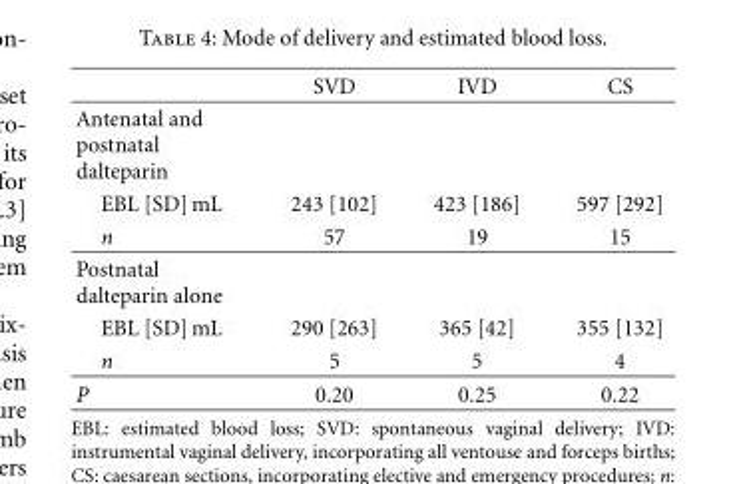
<table><thead><tr><td></td><td>SVD</td><td>IVD</td><td>CS</td></tr></thead><tbody><tr><td colspan="4">Antenatal and postnatal dalteparin</td></tr><tr><td>EBL [SD] mL</td><td>243 [102]</td><td>423 [186]</td><td>597 [292]</td></tr><tr><td>n</td><td>57</td><td>19</td><td>15</td></tr><tr><td colspan="4">Postnatal dalteparin alone</td></tr><tr><td>EBL [SD] mL</td><td>290 [263]</td><td>365 [42]</td><td>355 [132]</td></tr><tr><td>n</td><td>5</td><td>5</td><td>4</td></tr><tr><td>P</td><td>0.20</td><td>0.25</td><td>0.22</td></tr></tbody></table>